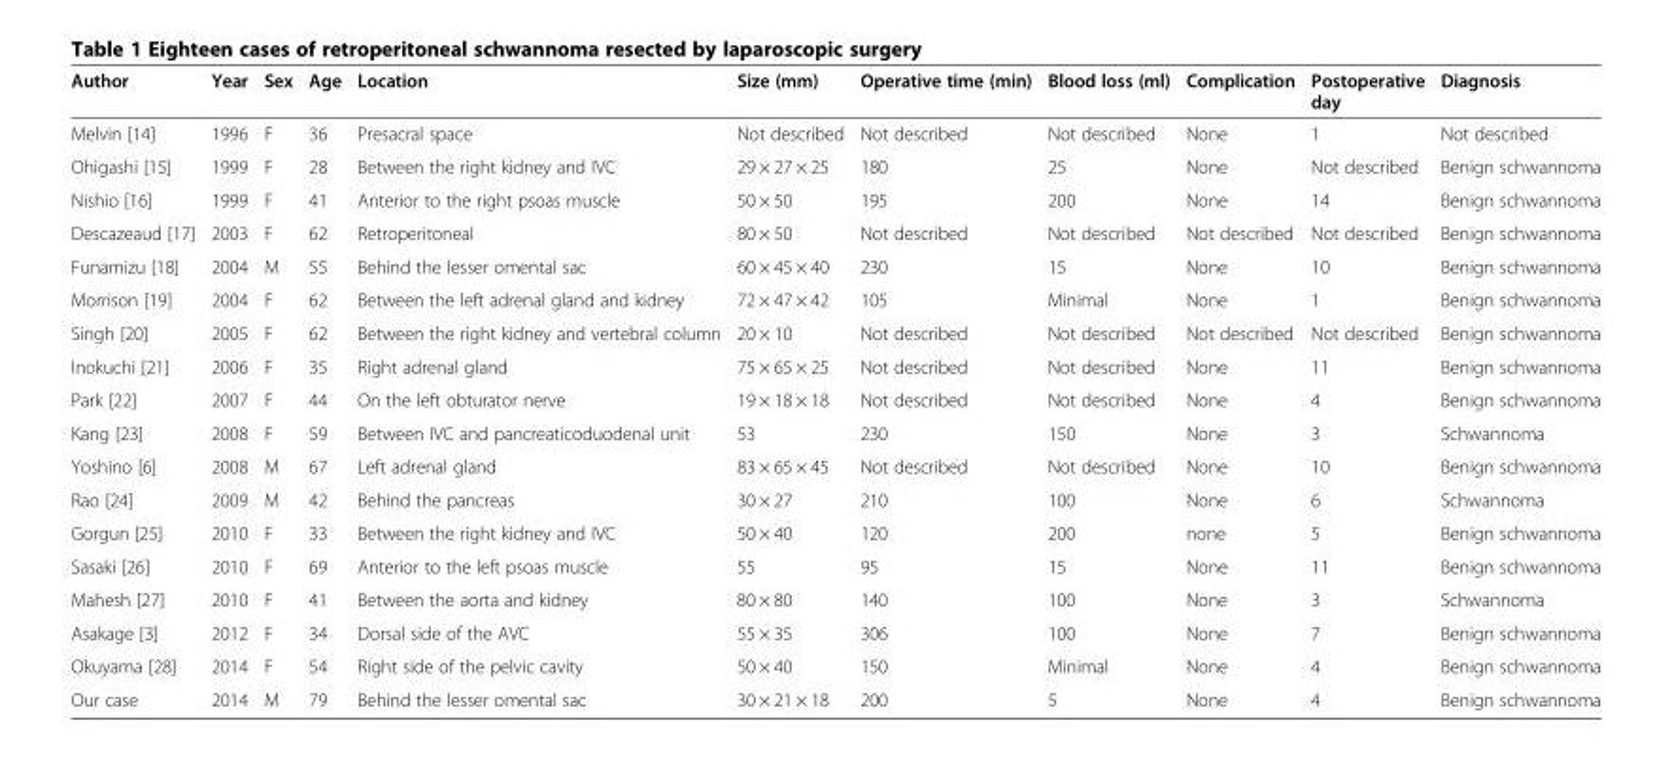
<table><thead><tr><td>Author</td><td>Year</td><td>Sex</td><td>Age</td><td>Location</td><td>Size (mm)</td><td>Operative time (min)</td><td>Blood loss (ml)</td><td>Complication</td><td>Postoperative day</td><td>Diagnosis</td></tr></thead><tbody><tr><td>Melvin [14]</td><td>1996</td><td>F</td><td>36</td><td>Presacral space</td><td>Not described</td><td>Not described</td><td>Not described</td><td>None</td><td>1</td><td>Not described</td></tr><tr><td>Ohigashi [15]</td><td>1999</td><td>F</td><td>28</td><td>Between the right kidney and IVC</td><td>29 × 27 × 25</td><td>180</td><td>25</td><td>None</td><td>Not described</td><td>Benign schwannoma</td></tr><tr><td>Nishio [16]</td><td>1999</td><td>F</td><td>41</td><td>Anterior to the right psoas muscle</td><td>50 × 50</td><td>195</td><td>200</td><td>None</td><td>14</td><td>Benign schwannoma</td></tr><tr><td>Descazeaud [17]</td><td>2003</td><td>F</td><td>62</td><td>Retroperitoneal</td><td>80 × 50</td><td>Not described</td><td>Not described</td><td>Not described</td><td>Not described</td><td>Benign schwannoma</td></tr><tr><td>Funamizu [18]</td><td>2004</td><td>M</td><td>55</td><td>Behind the lesser omental sac</td><td>60 × 45 × 40</td><td>230</td><td>15</td><td>None</td><td>10</td><td>Benign schwannoma</td></tr><tr><td>Morrison [19]</td><td>2004</td><td>F</td><td>62</td><td>Between the left adrenal gland and kidney</td><td>72 × 47 × 42</td><td>105</td><td>Minimal</td><td>None</td><td>1</td><td>Benign schwannoma</td></tr><tr><td>Singh [20]</td><td>2005</td><td>F</td><td>62</td><td>Between the right kidney and vertebral column</td><td>20 × 10</td><td>Not described</td><td>Not described</td><td>Not described</td><td>Not described</td><td>Benign schwannoma</td></tr><tr><td>Inokuchi [21]</td><td>2006</td><td>F</td><td>35</td><td>Right adrenal gland</td><td>75 × 65 × 25</td><td>Not described</td><td>Not described</td><td>None</td><td>11</td><td>Benign schwannoma</td></tr><tr><td>Park [22]</td><td>2007</td><td>F</td><td>44</td><td>On the left obturator nerve</td><td>19 × 18 × 18</td><td>Not described</td><td>Not described</td><td>None</td><td>4</td><td>Benign schwannoma</td></tr><tr><td>Kang [23]</td><td>2008</td><td>F</td><td>59</td><td>Between IVC and pancreaticoduodenal unit</td><td>53</td><td>230</td><td>150</td><td>None</td><td>3</td><td>Schwannoma</td></tr><tr><td>Yoshino [6]</td><td>2008</td><td>M</td><td>67</td><td>Left adrenal gland</td><td>83 × 65 × 45</td><td>Not described</td><td>Not described</td><td>None</td><td>10</td><td>Benign schwannoma</td></tr><tr><td>Rao [24]</td><td>2009</td><td>M</td><td>42</td><td>Behind the pancreas</td><td>30 × 27</td><td>210</td><td>100</td><td>None</td><td>6</td><td>Schwannoma</td></tr><tr><td>Gorgun [25]</td><td>2010</td><td>F</td><td>33</td><td>Between the right kidney and IVC</td><td>50 × 40</td><td>120</td><td>200</td><td>none</td><td>5</td><td>Benign schwannoma</td></tr><tr><td>Sasaki [26]</td><td>2010</td><td>F</td><td>69</td><td>Anterior to the left psoas muscle</td><td>55</td><td>95</td><td>15</td><td>None</td><td>11</td><td>Benign schwannoma</td></tr><tr><td>Mahesh [27]</td><td>2010</td><td>F</td><td>41</td><td>Between the aorta and kidney</td><td>80 × 80</td><td>140</td><td>100</td><td>None</td><td>3</td><td>Schwannoma</td></tr><tr><td>Asakage [3]</td><td>2012</td><td>F</td><td>34</td><td>Dorsal side of the AVC</td><td>55 × 35</td><td>306</td><td>100</td><td>None</td><td>7</td><td>Benign schwannoma</td></tr><tr><td>Okuyama [28]</td><td>2014</td><td>F</td><td>54</td><td>Right side of the pelvic cavity</td><td>50 × 40</td><td>150</td><td>Minimal</td><td>None</td><td>4</td><td>Benign schwannoma</td></tr><tr><td>Our case</td><td>2014</td><td>M</td><td>79</td><td>Behind the lesser omental sac</td><td>30 × 21 × 18</td><td>200</td><td>5</td><td>None</td><td>4</td><td>Benign schwannoma</td></tr></tbody></table>